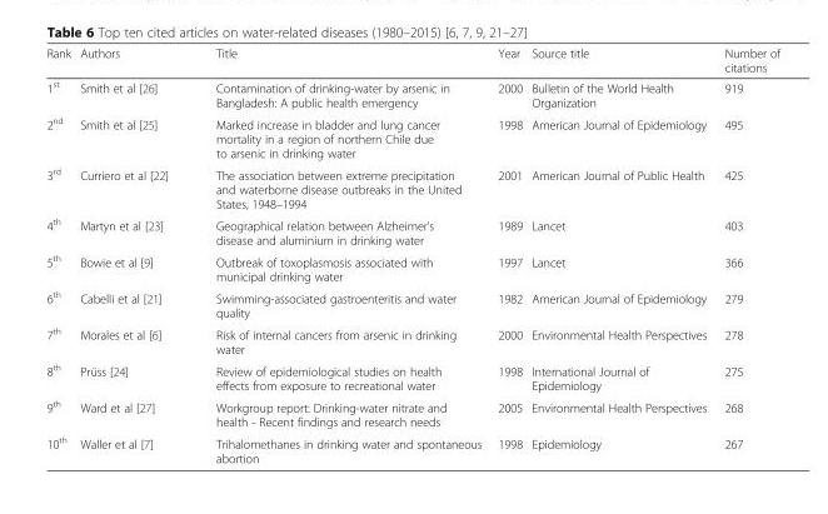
<table><thead><tr><td>Rank</td><td>Authors</td><td>Title</td><td>Year</td><td>Source title</td><td>Number of citations</td></tr></thead><tbody><tr><td>1<sup>st</sup></td><td>Smith et al [26]</td><td>Contamination of drinking-water by arsenic in Bangladesh: A public health emergency</td><td>2000</td><td>Bulletin of the World Health Organization</td><td>919</td></tr><tr><td>2<sup>nd</sup></td><td>Smith et al [25]</td><td>Marked increase in bladder and lung cancer mortality in a region of northern Chile due to arsenic in drinking water</td><td>1998</td><td>American Journal of Epidemiology</td><td>495</td></tr><tr><td>3<sup>rd</sup></td><td>Curriero et al [22]</td><td>The association between extreme precipitation and waterborne disease outbreaks in the United States, 1948–1994</td><td>2001</td><td>American Journal of Public Health</td><td>425</td></tr><tr><td>4<sup>th</sup></td><td>Martyn et al [23]</td><td>Geographical relation between Alzheimer’s disease and aluminium in drinking water</td><td>1989</td><td>Lancet</td><td>403</td></tr><tr><td>5<sup>th</sup></td><td>Bowie et al [9]</td><td>Outbreak of toxoplasmosis associated with municipal drinking water</td><td>1997</td><td>Lancet</td><td>366</td></tr><tr><td>6<sup>th</sup></td><td>Cabelli et al [21]</td><td>Swimming-associated gastroenteritis and water quality</td><td>1982</td><td>American Journal of Epidemiology</td><td>279</td></tr><tr><td>7<sup>th</sup></td><td>Morales et al [6]</td><td>Risk of internal cancers from arsenic in drinking water</td><td>2000</td><td>Environmental Health Perspectives</td><td>278</td></tr><tr><td>8<sup>th</sup></td><td>Prüss [24]</td><td>Review of epidemiological studies on health effects from exposure to recreational water</td><td>1998</td><td>International Journal of Epidemiology</td><td>275</td></tr><tr><td>9<sup>th</sup></td><td>Ward et al [27]</td><td>Workgroup report: Drinking-water nitrate and health - Recent findings and research needs</td><td>2005</td><td>Environmental Health Perspectives</td><td>268</td></tr><tr><td>10<sup>th</sup></td><td>Waller et al [7]</td><td>Trihalomethanes in drinking water and spontaneous abortion</td><td>1998</td><td>Epidemiology</td><td>267</td></tr></tbody></table>